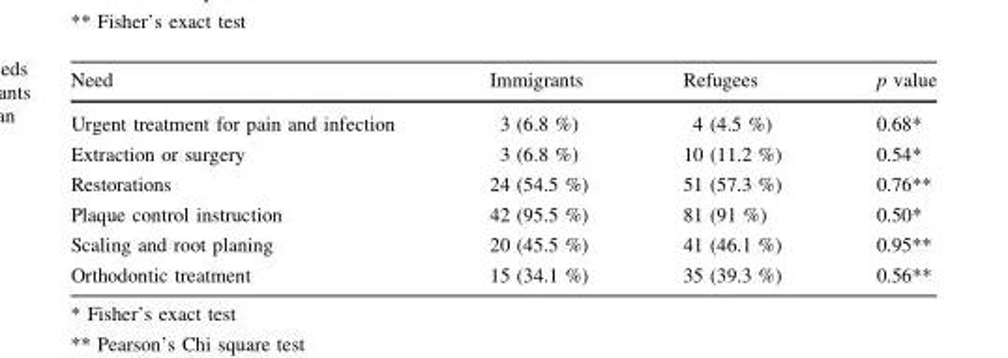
<table><thead><tr><td>Need</td><td>Immigrants</td><td>Refugees</td><td>p value</td></tr></thead><tbody><tr><td>Urgent treatment for pain and infection</td><td>3 (6.8 %)</td><td>4 (4.5 %)</td><td>0.68*</td></tr><tr><td>Extraction or surgery</td><td>3 (6.8 %)</td><td>10 (11.2 %)</td><td>0.54*</td></tr><tr><td>Restorations</td><td>24 (54.5 %)</td><td>51 (57.3 %)</td><td>0.76**</td></tr><tr><td>Plaque control instruction</td><td>42 (95.5 %)</td><td>81 (91 %)</td><td>0.50*</td></tr><tr><td>Scaling and root planing</td><td>20 (45.5 %)</td><td>41 (46.1 %)</td><td>0.95**</td></tr><tr><td>Orthodontic treatment</td><td>15 (34.1 %)</td><td>35 (39.3 %)</td><td>0.56**</td></tr></tbody></table>